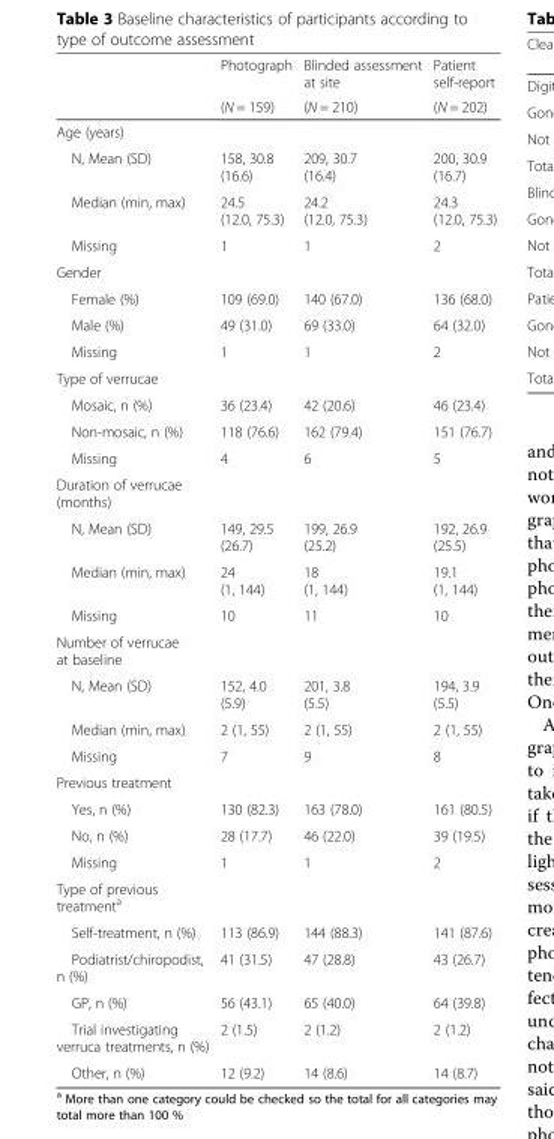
<table><thead><tr><td rowspan="2"></td><td rowspan="2">Photograph (N = 159)</td><td rowspan="2">Blinded assessment at site (N = 210)</td><td rowspan="2">Patient self-report (N = 202)</td></tr><tr></tr></thead><tbody><tr><td colspan="4">Age (years)</td></tr><tr><td>N, Mean (SD)</td><td>158, 30.8 (16.6)</td><td>209, 30.7 (16.4)</td><td>200, 30.9 (16.7)</td></tr><tr><td>Median (min, max)</td><td>24.5 (12.0, 75.3)</td><td>24.2 (12.0, 75.3)</td><td>24.3 (12.0, 75.3)</td></tr><tr><td>Missing</td><td>1</td><td>1</td><td>2</td></tr><tr><td colspan="4">Gender</td></tr><tr><td>Female (%)</td><td>109 (69.0)</td><td>140 (67.0)</td><td>136 (68.0)</td></tr><tr><td>Male (%)</td><td>49 (31.0)</td><td>69 (33.0)</td><td>64 (32.0)</td></tr><tr><td>Missing</td><td>1</td><td>1</td><td>2</td></tr><tr><td colspan="4">Type of verrucae</td></tr><tr><td>Mosaic, n (%)</td><td>36 (23.4)</td><td>42 (20.6)</td><td>46 (23.4)</td></tr><tr><td>Non-mosaic, n (%)</td><td>118 (76.6)</td><td>162 (79.4)</td><td>151 (76.7)</td></tr><tr><td>Missing</td><td>4</td><td>6</td><td>5</td></tr><tr><td colspan="4">Duration of verrucae (months)</td></tr><tr><td>N, Mean (SD)</td><td>149, 29.5 (26.7)</td><td>199, 26.9 (25.2)</td><td>192, 26.9 (25.5)</td></tr><tr><td>Median (min, max)</td><td>24 (1, 144)</td><td>18 (1, 144)</td><td>19.1 (1, 144)</td></tr><tr><td>Missing</td><td>10</td><td>11</td><td>10</td></tr><tr><td colspan="4">Number of verrucae at baseline</td></tr><tr><td>N, Mean (SD)</td><td>152, 4.0 (5.9)</td><td>201, 3.8 (5.5)</td><td>194, 3.9 (5.5)</td></tr><tr><td>Median (min, max)</td><td>2 (1, 55)</td><td>2 (1, 55)</td><td>2 (1, 55)</td></tr><tr><td>Missing</td><td>7</td><td>9</td><td>8</td></tr><tr><td colspan="4">Previous treatment</td></tr><tr><td>Yes, n (%)</td><td>130 (82.3)</td><td>163 (78.0)</td><td>161 (80.5)</td></tr><tr><td>No, n (%)</td><td>28 (17.7)</td><td>46 (22.0)</td><td>39 (19.5)</td></tr><tr><td>Missing</td><td>1</td><td>1</td><td>2</td></tr><tr><td colspan="4">Type of previous treatment<sup>a</sup></td></tr><tr><td>Self-treatment, n (%)</td><td>113 (86.9)</td><td>144 (88.3)</td><td>141 (87.6)</td></tr><tr><td>Podiatrist/chiropodist, n (%)</td><td>41 (31.5)</td><td>47 (28.8)</td><td>43 (26.7)</td></tr><tr><td>GP, n (%)</td><td>56 (43.1)</td><td>65 (40.0)</td><td>64 (39.8)</td></tr><tr><td>Trial investigating verruca treatments, n (%)</td><td>2 (1.5)</td><td>2 (1.2)</td><td>2 (1.2)</td></tr><tr><td>Other, n (%)</td><td>12 (9.2)</td><td>14 (8.6)</td><td>14 (8.7)</td></tr></tbody></table>